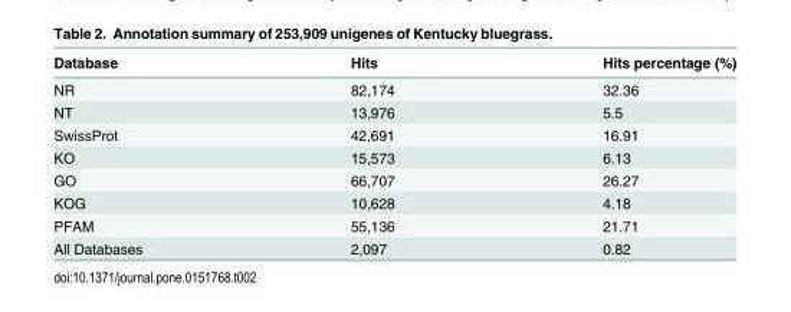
<table><thead><tr><td>Database</td><td>Hits</td><td>Hits percentage (%)</td></tr></thead><tbody><tr><td>NR</td><td>82,174</td><td>32.36</td></tr><tr><td>NT</td><td>13,976</td><td>5.5</td></tr><tr><td>SwissProt</td><td>42,691</td><td>16.91</td></tr><tr><td>KO</td><td>15,573</td><td>6.13</td></tr><tr><td>GO</td><td>66,707</td><td>26.27</td></tr><tr><td>KOG</td><td>10,628</td><td>4.18</td></tr><tr><td>PFAM</td><td>55,136</td><td>21.71</td></tr><tr><td>All Databases</td><td>2,097</td><td>0.82</td></tr></tbody></table>